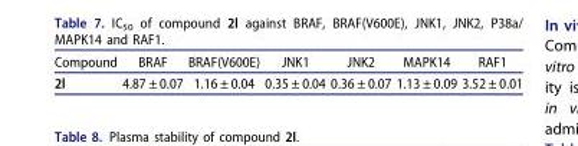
<table><thead><tr><td>Compound</td><td>BRAF</td><td>BRAF(V600E)</td><td>JNK1</td><td>JNK2</td><td>MAPK14</td><td>RAF1</td></tr></thead><tbody><tr><td>2l</td><td>4.87 ± 0.07</td><td>1.16 ± 0.04</td><td>0.35 ± 0.04</td><td>0.36 ± 0.07</td><td>1.13 ± 0.09</td><td>3.52 ± 0.01</td></tr></tbody></table>